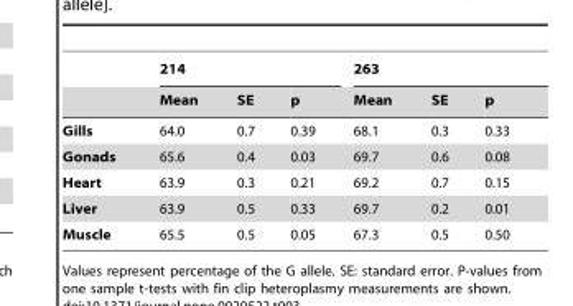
<table><thead><tr><td rowspan="2"></td><td colspan="3">214</td><td colspan="3">263</td></tr><tr><td>Mean</td><td>SE</td><td>p</td><td>Mean</td><td>SE</td><td>p</td></tr></thead><tbody><tr><td>Gills</td><td>64.0</td><td>0.7</td><td>0.39</td><td>68.1</td><td>0.3</td><td>0.33</td></tr><tr><td>Gonads</td><td>65.6</td><td>0.4</td><td>0.03</td><td>69.7</td><td>0.6</td><td>0.08</td></tr><tr><td>Heart</td><td>63.9</td><td>0.3</td><td>0.21</td><td>69.2</td><td>0.7</td><td>0.15</td></tr><tr><td>Liver</td><td>63.9</td><td>0.5</td><td>0.33</td><td>69.7</td><td>0.2</td><td>0.01</td></tr><tr><td>Muscle</td><td>65.5</td><td>0.5</td><td>0.05</td><td>67.3</td><td>0.5</td><td>0.50</td></tr></tbody></table>